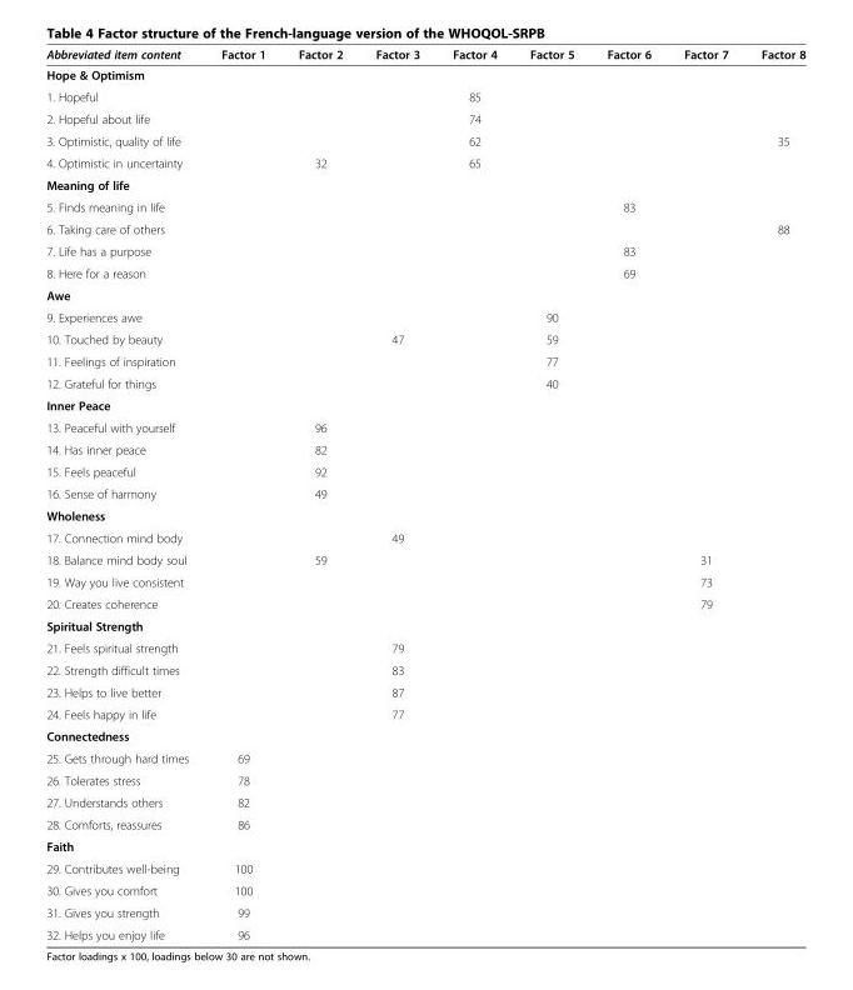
<table><thead><tr><td>Abbreviated item content</td><td>Factor 1</td><td>Factor 2</td><td>Factor 3</td><td>Factor 4</td><td>Factor 5</td><td>Factor 6</td><td>Factor 7</td><td>Factor 8</td></tr></thead><tbody><tr><td colspan="9">Hope &amp; Optimism</td></tr><tr><td>1. Hopeful</td><td></td><td></td><td></td><td>85</td><td></td><td></td><td></td><td></td></tr><tr><td>2. Hopeful about life</td><td></td><td></td><td></td><td>74</td><td></td><td></td><td></td><td></td></tr><tr><td>3. Optimistic, quality of life</td><td></td><td></td><td></td><td>62</td><td></td><td></td><td></td><td>35</td></tr><tr><td>4. Optimistic in uncertainty</td><td></td><td>32</td><td></td><td>65</td><td></td><td></td><td></td><td></td></tr><tr><td colspan="9">Meaning of life</td></tr><tr><td>5. Finds meaning in life</td><td></td><td></td><td></td><td></td><td></td><td>83</td><td></td><td></td></tr><tr><td>6. Taking care of others</td><td></td><td></td><td></td><td></td><td></td><td></td><td></td><td>88</td></tr><tr><td>7. Life has a purpose</td><td></td><td></td><td></td><td></td><td></td><td>83</td><td></td><td></td></tr><tr><td>8. Here for a reason</td><td></td><td></td><td></td><td></td><td></td><td>69</td><td></td><td></td></tr><tr><td colspan="9">Awe</td></tr><tr><td>9. Experiences awe</td><td></td><td></td><td></td><td></td><td>90</td><td></td><td></td><td></td></tr><tr><td>10. Touched by beauty</td><td></td><td></td><td>47</td><td></td><td>59</td><td></td><td></td><td></td></tr><tr><td>11. Feelings of inspiration</td><td></td><td></td><td></td><td></td><td>77</td><td></td><td></td><td></td></tr><tr><td>12. Grateful for things</td><td></td><td></td><td></td><td></td><td>40</td><td></td><td></td><td></td></tr><tr><td colspan="9">Inner Peace</td></tr><tr><td>13. Peaceful with yourself</td><td></td><td>96</td><td></td><td></td><td></td><td></td><td></td><td></td></tr><tr><td>14. Has inner peace</td><td></td><td>82</td><td></td><td></td><td></td><td></td><td></td><td></td></tr><tr><td>15. Feels peaceful</td><td></td><td>92</td><td></td><td></td><td></td><td></td><td></td><td></td></tr><tr><td>16. Sense of harmony</td><td></td><td>49</td><td></td><td></td><td></td><td></td><td></td><td></td></tr><tr><td colspan="9">Wholeness</td></tr><tr><td>17. Connection mind body</td><td></td><td></td><td>49</td><td></td><td></td><td></td><td></td><td></td></tr><tr><td>18. Balance mind body soul</td><td></td><td>59</td><td></td><td></td><td></td><td></td><td>31</td><td></td></tr><tr><td>19. Way you live consistent</td><td></td><td></td><td></td><td></td><td></td><td></td><td>73</td><td></td></tr><tr><td>20. Creates coherence</td><td></td><td></td><td></td><td></td><td></td><td></td><td>79</td><td></td></tr><tr><td colspan="9">Spiritual Strength</td></tr><tr><td>21. Feels spiritual strength</td><td></td><td></td><td>79</td><td></td><td></td><td></td><td></td><td></td></tr><tr><td>22. Strength difficult times</td><td></td><td></td><td>83</td><td></td><td></td><td></td><td></td><td></td></tr><tr><td>23. Helps to live better</td><td></td><td></td><td>87</td><td></td><td></td><td></td><td></td><td></td></tr><tr><td>24. Feels happy in life</td><td></td><td></td><td>77</td><td></td><td></td><td></td><td></td><td></td></tr><tr><td colspan="9">Connectedness</td></tr><tr><td>25. Gets through hard times</td><td>69</td><td></td><td></td><td></td><td></td><td></td><td></td><td></td></tr><tr><td>26. Tolerates stress</td><td>78</td><td></td><td></td><td></td><td></td><td></td><td></td><td></td></tr><tr><td>27. Understands others</td><td>82</td><td></td><td></td><td></td><td></td><td></td><td></td><td></td></tr><tr><td>28. Comforts, reassures</td><td>86</td><td></td><td></td><td></td><td></td><td></td><td></td><td></td></tr><tr><td colspan="9">Faith</td></tr><tr><td>29. Contributes well-being</td><td>100</td><td></td><td></td><td></td><td></td><td></td><td></td><td></td></tr><tr><td>30. Gives you comfort</td><td>100</td><td></td><td></td><td></td><td></td><td></td><td></td><td></td></tr><tr><td>31. Gives you strength</td><td>99</td><td></td><td></td><td></td><td></td><td></td><td></td><td></td></tr><tr><td>32. Helps you enjoy life</td><td>96</td><td></td><td></td><td></td><td></td><td></td><td></td><td></td></tr></tbody></table>